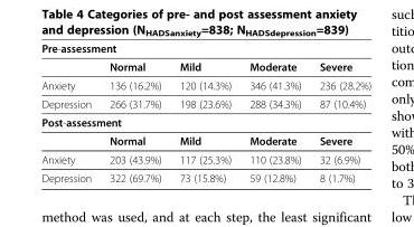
<table><thead><tr><td colspan="5">Pre-assessment</td></tr><tr><td></td><td>Normal</td><td>Mild</td><td>Moderate</td><td>Severe</td></tr></thead><tbody><tr><td>Anxiety</td><td>136 (16.2%)</td><td>120 (14.3%)</td><td>346 (41.3%)</td><td>236 (28.2%)</td></tr><tr><td>Depression</td><td>266 (31.7%)</td><td>198 (23.6%)</td><td>288 (34.3%)</td><td>87 (10.4%)</td></tr><tr><td colspan="5">Post-assessment</td></tr><tr><td></td><td>Normal</td><td>Mild</td><td>Moderate</td><td>Severe</td></tr><tr><td>Anxiety</td><td>203 (43.9%)</td><td>117 (25.3%)</td><td>110 (23.8%)</td><td>32 (6.9%)</td></tr><tr><td>Depression</td><td>322 (69.7%)</td><td>73 (15.8%)</td><td>59 (12.8%)</td><td>8 (1.7%)</td></tr></tbody></table>